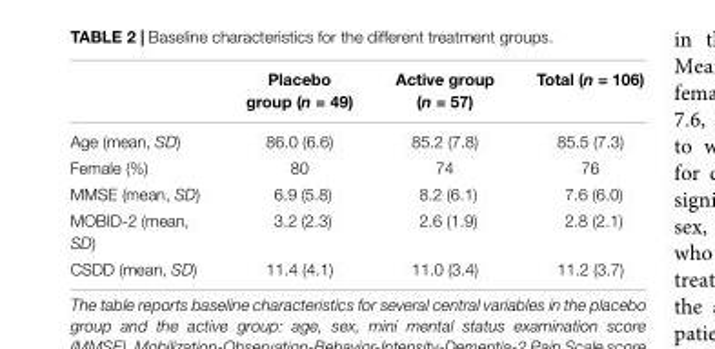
<table><thead><tr><td></td><td>Placebo group (n = 49)</td><td>Active group (n = 57)</td><td>Total (n = 106)</td></tr></thead><tbody><tr><td>Age (mean, SD)</td><td>86.0 (6.6)</td><td>85.2 (7.8)</td><td>85.5 (7.3)</td></tr><tr><td>Female (%)</td><td>80</td><td>74</td><td>76</td></tr><tr><td>MMSE (mean, SD)</td><td>6.9 (5.8)</td><td>8.2 (6.1)</td><td>7.6 (6.0)</td></tr><tr><td>MOBID-2 (mean, SD)</td><td>3.2 (2.3)</td><td>2.6 (1.9)</td><td>2.8 (2.1)</td></tr><tr><td>CSDD (mean, SD)</td><td>11.4 (4.1)</td><td>11.0 (3.4)</td><td>11.2 (3.7)</td></tr></tbody></table>